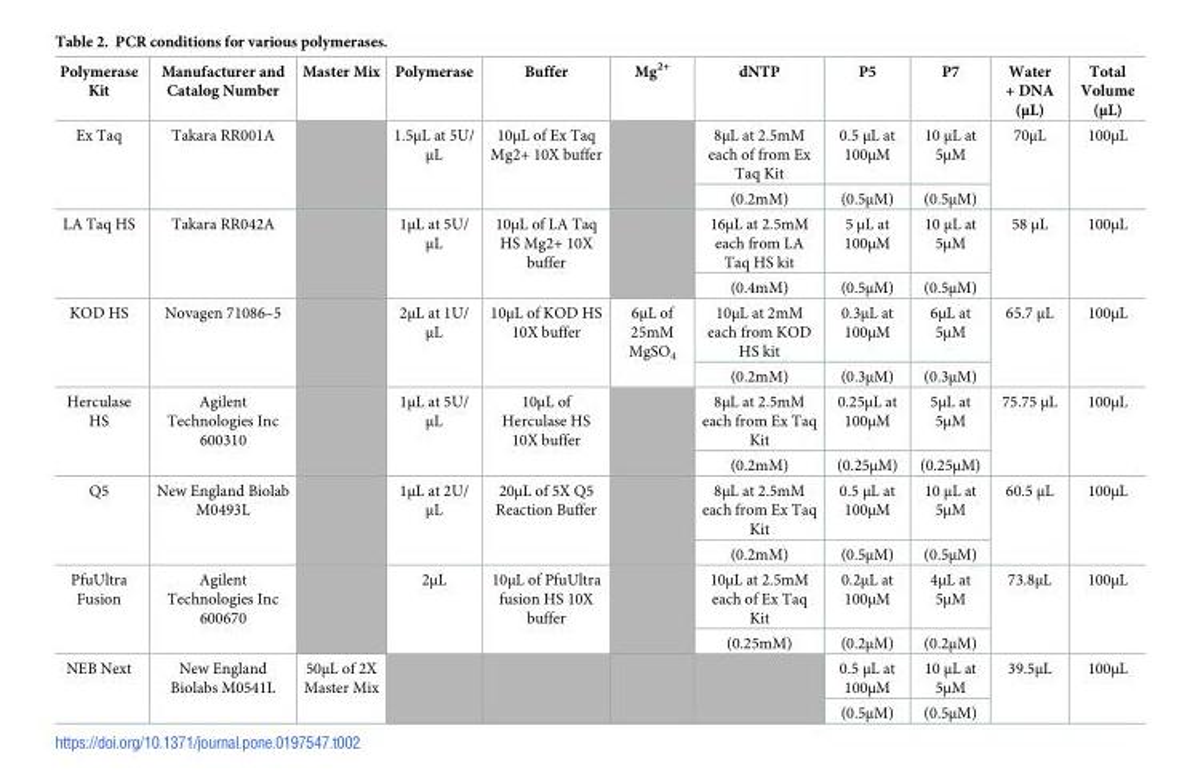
<table><thead><tr><td>Polymerase Kit</td><td>Manufacturer and Catalog Number</td><td>Master Mix</td><td>Polymerase</td><td>Buffer</td><td>Mg<sup>2+</sup></td><td>dNTP</td><td>P5</td><td>P7</td><td>Water + DNA (μL)</td><td>Total Volume (μL)</td></tr></thead><tbody><tr><td rowspan="2">Ex Taq</td><td rowspan="2">Takara RR001A</td><td rowspan="2"></td><td rowspan="2">1.5μL at 5U/ μL</td><td rowspan="2">10μL of Ex Taq Mg2+ 10X buffer</td><td rowspan="2"></td><td>8μL at 2.5mM each of from Ex Taq Kit</td><td>0.5 μL at 100μM</td><td>10 μL at 5μM</td><td rowspan="2">70μL</td><td rowspan="2">100μL</td></tr><tr><td>(0.2mM)</td><td>(0.5μM)</td><td>(0.5μM)</td></tr><tr><td rowspan="2">LA Taq HS</td><td rowspan="2">Takara RR042A</td><td rowspan="2"></td><td rowspan="2">1μL at 5U/ μL</td><td rowspan="2">10μL of LA Taq HS Mg2+ 10X buffer</td><td rowspan="2"></td><td>16μL at 2.5mM each from LA Taq HS kit</td><td>5 μL at 100μM</td><td>10 μL at 5μM</td><td rowspan="2">58 μL</td><td rowspan="2">100μL</td></tr><tr><td>(0.4mM)</td><td>(0.5μM)</td><td>(0.5μM)</td></tr><tr><td rowspan="2">KOD HS</td><td rowspan="2">Novagen 71086–5</td><td rowspan="2"></td><td rowspan="2">2μL at 1U/ μL</td><td rowspan="2">10μL of KOD HS 10X buffer</td><td rowspan="2">6μL of 25mM MgSO<sub>4</sub></td><td>10μL at 2mM each from KOD HS kit</td><td>0.3μL at 100μM</td><td>6μL at 5μM</td><td rowspan="2">65.7 μL</td><td rowspan="2">100μL</td></tr><tr><td>(0.2mM)</td><td>(0.3μM)</td><td>(0.3μM)</td></tr><tr><td rowspan="2">Herculase HS</td><td rowspan="2">Agilent Technologies Inc 600310</td><td rowspan="2"></td><td rowspan="2">1μL at 5U/ μL</td><td rowspan="2">10μL of Herculase HS 10X buffer</td><td rowspan="2"></td><td>8μL at 2.5mM each from Ex Taq Kit</td><td>0.25μL at 100μM</td><td>5μL at 5μM</td><td rowspan="2">75.75 μL</td><td rowspan="2">100μL</td></tr><tr><td>(0.2mM)</td><td>(0.25μM)</td><td>(0.25μM)</td></tr><tr><td rowspan="2">Q5</td><td rowspan="2">New England Biolab M0493L</td><td rowspan="2"></td><td rowspan="2">1μL at 2U/ μL</td><td rowspan="2">20μL of 5X Q5 Reaction Buffer</td><td rowspan="2"></td><td>8μL at 2.5mM each from Ex Taq Kit</td><td>0.5 μL at 100μM</td><td>10 μL at 5μM</td><td rowspan="2">60.5 μL</td><td rowspan="2">100μL</td></tr><tr><td>(0.2mM)</td><td>(0.5μM)</td><td>(0.5μM)</td></tr><tr><td rowspan="2">PfuUltra Fusion</td><td rowspan="2">Agilent Technologies Inc 600670</td><td rowspan="2"></td><td rowspan="2">2μL</td><td rowspan="2">10μL of PfuUltra fusion HS 10X buffer</td><td rowspan="2"></td><td>10μL at 2.5mM each of Ex Taq Kit</td><td>0.2μL at 100μM</td><td>4μL at 5μM</td><td rowspan="2">73.8μL</td><td rowspan="2">100μL</td></tr><tr><td>(0.25mM)</td><td>(0.2μM)</td><td>(0.2μM)</td></tr><tr><td rowspan="2">NEB Next</td><td rowspan="2">New England Biolabs M0541L</td><td rowspan="2">50μL of 2X Master Mix</td><td rowspan="2"></td><td rowspan="2"></td><td rowspan="2"></td><td rowspan="2"></td><td>0.5 μL at 100μM</td><td>10 μL at 5μM</td><td rowspan="2">39.5μL</td><td rowspan="2">100μL</td></tr><tr><td>(0.5μM)</td><td>(0.5μM)</td></tr></tbody></table>